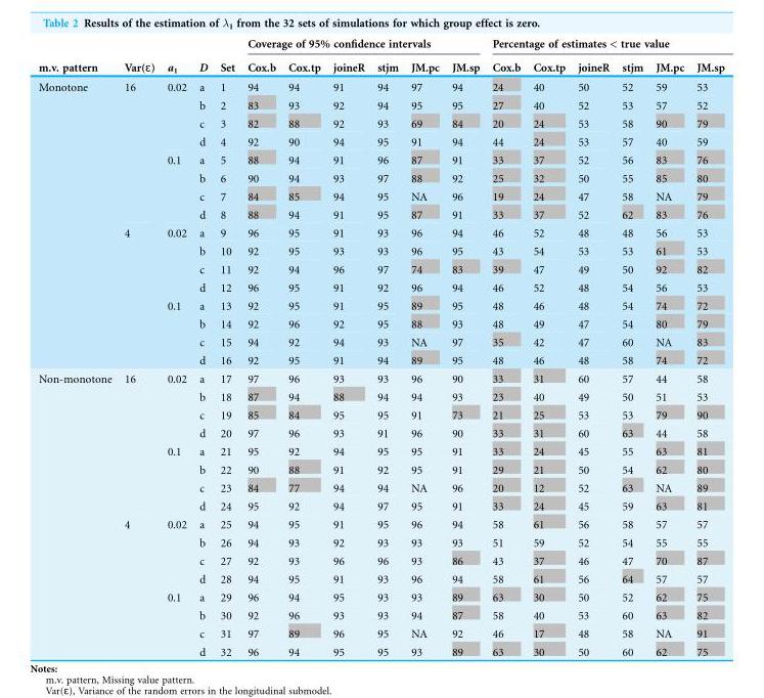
<table><thead><tr><td rowspan="2">m.v. pattern</td><td rowspan="2">Var(ɛ)</td><td rowspan="2">a<sub>1</sub></td><td rowspan="2">D</td><td rowspan="2">Set</td><td colspan="6">Coverage of 95% confidence intervals</td><td colspan="6">Percentage of estimates &lt; true value</td></tr><tr><td>Cox.b</td><td>Cox.tp</td><td>joineR</td><td>stjm</td><td>JM.pc</td><td>JM.sp</td><td>Cox.b</td><td>Cox.tp</td><td>joineR</td><td>stjm</td><td>JM.pc</td><td>JM.sp</td></tr></thead><tbody><tr><td rowspan="16">Monotone</td><td rowspan="8">16</td><td rowspan="4">0.02</td><td>a</td><td>1</td><td>94</td><td>94</td><td>91</td><td>94</td><td>97</td><td>94</td><td>24</td><td>40</td><td>50</td><td>52</td><td>59</td><td>53</td></tr><tr><td>b</td><td>2</td><td>83</td><td>93</td><td>92</td><td>94</td><td>95</td><td>95</td><td>27</td><td>40</td><td>52</td><td>53</td><td>57</td><td>52</td></tr><tr><td>c</td><td>3</td><td>82</td><td>88</td><td>92</td><td>93</td><td>69</td><td>84</td><td>20</td><td>24</td><td>53</td><td>58</td><td>90</td><td>79</td></tr><tr><td>d</td><td>4</td><td>92</td><td>90</td><td>94</td><td>95</td><td>91</td><td>94</td><td>44</td><td>24</td><td>53</td><td>57</td><td>40</td><td>59</td></tr><tr><td rowspan="4">0.1</td><td>a</td><td>5</td><td>88</td><td>94</td><td>91</td><td>96</td><td>87</td><td>91</td><td>33</td><td>37</td><td>52</td><td>56</td><td>83</td><td>76</td></tr><tr><td>b</td><td>6</td><td>90</td><td>94</td><td>93</td><td>97</td><td>88</td><td>92</td><td>25</td><td>32</td><td>50</td><td>55</td><td>85</td><td>80</td></tr><tr><td>c</td><td>7</td><td>84</td><td>85</td><td>94</td><td>95</td><td>NA</td><td>96</td><td>19</td><td>24</td><td>47</td><td>58</td><td>NA</td><td>79</td></tr><tr><td>d</td><td>8</td><td>88</td><td>94</td><td>91</td><td>95</td><td>87</td><td>91</td><td>33</td><td>37</td><td>52</td><td>62</td><td>83</td><td>76</td></tr><tr><td rowspan="8">4</td><td rowspan="4">0.02</td><td>a</td><td>9</td><td>96</td><td>95</td><td>91</td><td>93</td><td>96</td><td>94</td><td>46</td><td>52</td><td>48</td><td>48</td><td>56</td><td>53</td></tr><tr><td>b</td><td>10</td><td>92</td><td>95</td><td>93</td><td>93</td><td>96</td><td>95</td><td>43</td><td>54</td><td>53</td><td>53</td><td>61</td><td>53</td></tr><tr><td>c</td><td>11</td><td>92</td><td>94</td><td>96</td><td>97</td><td>74</td><td>83</td><td>39</td><td>47</td><td>49</td><td>50</td><td>92</td><td>82</td></tr><tr><td>d</td><td>12</td><td>96</td><td>95</td><td>91</td><td>92</td><td>96</td><td>94</td><td>46</td><td>52</td><td>48</td><td>54</td><td>56</td><td>53</td></tr><tr><td rowspan="4">0.1</td><td>a</td><td>13</td><td>92</td><td>95</td><td>91</td><td>95</td><td>89</td><td>95</td><td>48</td><td>46</td><td>48</td><td>54</td><td>74</td><td>72</td></tr><tr><td>b</td><td>14</td><td>92</td><td>96</td><td>92</td><td>95</td><td>88</td><td>93</td><td>48</td><td>49</td><td>47</td><td>54</td><td>80</td><td>79</td></tr><tr><td>c</td><td>15</td><td>94</td><td>92</td><td>94</td><td>93</td><td>NA</td><td>97</td><td>35</td><td>42</td><td>47</td><td>60</td><td>NA</td><td>83</td></tr><tr><td>d</td><td>16</td><td>92</td><td>95</td><td>91</td><td>94</td><td>89</td><td>95</td><td>48</td><td>46</td><td>48</td><td>58</td><td>74</td><td>72</td></tr><tr><td rowspan="16">Non-monotone</td><td rowspan="8">16</td><td rowspan="4">0.02</td><td>a</td><td>17</td><td>97</td><td>96</td><td>93</td><td>93</td><td>96</td><td>90</td><td>33</td><td>31</td><td>60</td><td>57</td><td>44</td><td>58</td></tr><tr><td>b</td><td>18</td><td>87</td><td>94</td><td>88</td><td>94</td><td>94</td><td>93</td><td>23</td><td>40</td><td>49</td><td>50</td><td>51</td><td>53</td></tr><tr><td>c</td><td>19</td><td>85</td><td>84</td><td>95</td><td>95</td><td>91</td><td>73</td><td>21</td><td>25</td><td>53</td><td>53</td><td>79</td><td>90</td></tr><tr><td>d</td><td>20</td><td>97</td><td>96</td><td>93</td><td>91</td><td>96</td><td>90</td><td>33</td><td>31</td><td>60</td><td>63</td><td>44</td><td>58</td></tr><tr><td rowspan="4">0.1</td><td>a</td><td>21</td><td>95</td><td>92</td><td>94</td><td>95</td><td>95</td><td>91</td><td>33</td><td>24</td><td>45</td><td>55</td><td>63</td><td>81</td></tr><tr><td>b</td><td>22</td><td>90</td><td>88</td><td>91</td><td>92</td><td>95</td><td>91</td><td>29</td><td>21</td><td>50</td><td>54</td><td>62</td><td>80</td></tr><tr><td>c</td><td>23</td><td>84</td><td>77</td><td>94</td><td>94</td><td>NA</td><td>96</td><td>20</td><td>12</td><td>52</td><td>63</td><td>NA</td><td>89</td></tr><tr><td>d</td><td>24</td><td>95</td><td>92</td><td>94</td><td>97</td><td>95</td><td>91</td><td>33</td><td>24</td><td>45</td><td>59</td><td>63</td><td>81</td></tr><tr><td rowspan="8">4</td><td rowspan="4">0.02</td><td>a</td><td>25</td><td>94</td><td>95</td><td>91</td><td>95</td><td>96</td><td>94</td><td>58</td><td>61</td><td>56</td><td>58</td><td>57</td><td>57</td></tr><tr><td>b</td><td>26</td><td>94</td><td>93</td><td>92</td><td>93</td><td>93</td><td>93</td><td>51</td><td>59</td><td>52</td><td>54</td><td>55</td><td>55</td></tr><tr><td>c</td><td>27</td><td>92</td><td>93</td><td>96</td><td>96</td><td>93</td><td>86</td><td>43</td><td>37</td><td>46</td><td>47</td><td>70</td><td>87</td></tr><tr><td>d</td><td>28</td><td>94</td><td>95</td><td>91</td><td>93</td><td>96</td><td>94</td><td>58</td><td>61</td><td>56</td><td>64</td><td>57</td><td>57</td></tr><tr><td rowspan="4">0.1</td><td>a</td><td>29</td><td>96</td><td>94</td><td>95</td><td>93</td><td>93</td><td>89</td><td>63</td><td>30</td><td>50</td><td>52</td><td>62</td><td>75</td></tr><tr><td>b</td><td>30</td><td>92</td><td>96</td><td>93</td><td>93</td><td>94</td><td>87</td><td>58</td><td>40</td><td>53</td><td>60</td><td>63</td><td>82</td></tr><tr><td>c</td><td>31</td><td>97</td><td>89</td><td>96</td><td>95</td><td>NA</td><td>92</td><td>46</td><td>17</td><td>48</td><td>58</td><td>NA</td><td>91</td></tr><tr><td>d</td><td>32</td><td>96</td><td>94</td><td>95</td><td>95</td><td>93</td><td>89</td><td>63</td><td>30</td><td>50</td><td>60</td><td>62</td><td>75</td></tr></tbody></table>